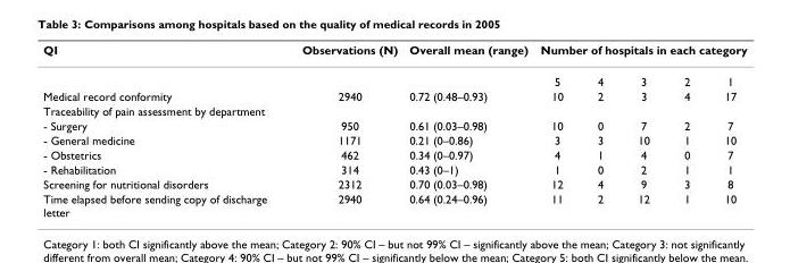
<table><thead><tr><td rowspan="2">QI</td><td rowspan="2">Observations (N)</td><td rowspan="2">Overall mean (range)</td><td colspan="5">Number of hospitals in each category</td></tr><tr><td>5</td><td>4</td><td>3</td><td>2</td><td>1</td></tr></thead><tbody><tr><td>Medical record conformity</td><td>2940</td><td>0.72 (0.48–0.93)</td><td>10</td><td>2</td><td>3</td><td>4</td><td>17</td></tr><tr><td colspan="8">Traceability of pain assessment by department</td></tr><tr><td>- Surgery</td><td>950</td><td>0.61 (0.03–0.98)</td><td>10</td><td>0</td><td>7</td><td>2</td><td>7</td></tr><tr><td>- General medicine</td><td>1171</td><td>0.21 (0–0.86)</td><td>3</td><td>3</td><td>10</td><td>1</td><td>10</td></tr><tr><td>- Obstetrics</td><td>462</td><td>0.34 (0–0.97)</td><td>4</td><td>1</td><td>4</td><td>0</td><td>7</td></tr><tr><td>- Rehabilitation</td><td>314</td><td>0.43 (0–1)</td><td>1</td><td>0</td><td>2</td><td>1</td><td>1</td></tr><tr><td>Screening for nutritional disorders</td><td>2312</td><td>0.70 (0.03–0.98)</td><td>12</td><td>4</td><td>9</td><td>3</td><td>8</td></tr><tr><td>Time elapsed before sending copy of discharge letter</td><td>2940</td><td>0.64 (0.24–0.96)</td><td>11</td><td>2</td><td>12</td><td>1</td><td>10</td></tr></tbody></table>